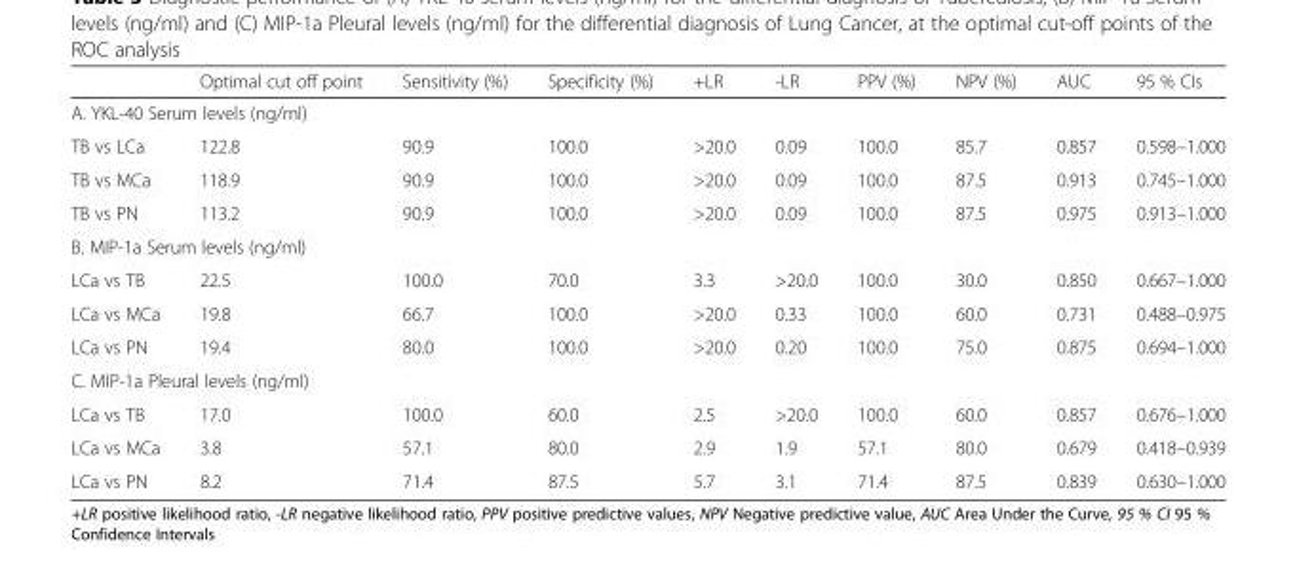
<table><thead><tr><td></td><td>Optimal cut off point</td><td>Sensitivity (%)</td><td>Specificity (%)</td><td>+LR</td><td>-LR</td><td>PPV (%)</td><td>NPV (%)</td><td>AUC</td><td>95 % CIs</td></tr></thead><tbody><tr><td colspan="10">A. YKL-40 Serum levels (ng/ml)</td></tr><tr><td>TB vs LCa</td><td>122.8</td><td>90.9</td><td>100.0</td><td>&gt;20.0</td><td>0.09</td><td>100.0</td><td>85.7</td><td>0.857</td><td>0.598–1.000</td></tr><tr><td>TB vs MCa</td><td>118.9</td><td>90.9</td><td>100.0</td><td>&gt;20.0</td><td>0.09</td><td>100.0</td><td>87.5</td><td>0.913</td><td>0.745–1.000</td></tr><tr><td>TB vs PN</td><td>113.2</td><td>90.9</td><td>100.0</td><td>&gt;20.0</td><td>0.09</td><td>100.0</td><td>87.5</td><td>0.975</td><td>0.913–1.000</td></tr><tr><td colspan="10">B. MIP-1a Serum levels (ng/ml)</td></tr><tr><td>LCa vs ΤΒ</td><td>22.5</td><td>100.0</td><td>70.0</td><td>3.3</td><td>&gt;20.0</td><td>100.0</td><td>30.0</td><td>0.850</td><td>0.667–1.000</td></tr><tr><td>LCa vs MCa</td><td>19.8</td><td>66.7</td><td>100.0</td><td>&gt;20.0</td><td>0.33</td><td>100.0</td><td>60.0</td><td>0.731</td><td>0.488–0.975</td></tr><tr><td>LCa vs PN</td><td>19.4</td><td>80.0</td><td>100.0</td><td>&gt;20.0</td><td>0.20</td><td>100.0</td><td>75.0</td><td>0.875</td><td>0.694–1.000</td></tr><tr><td colspan="10">C. MIP-1a Pleural levels (ng/ml)</td></tr><tr><td>LCa vs TB</td><td>17.0</td><td>100.0</td><td>60.0</td><td>2.5</td><td>&gt;20.0</td><td>100.0</td><td>60.0</td><td>0.857</td><td>0.676–1.000</td></tr><tr><td>LCa vs MCa</td><td>3.8</td><td>57.1</td><td>80.0</td><td>2.9</td><td>1.9</td><td>57.1</td><td>80.0</td><td>0.679</td><td>0.418–0.939</td></tr><tr><td>LCa vs PN</td><td>8.2</td><td>71.4</td><td>87.5</td><td>5.7</td><td>3.1</td><td>71.4</td><td>87.5</td><td>0.839</td><td>0.630–1.000</td></tr></tbody></table>